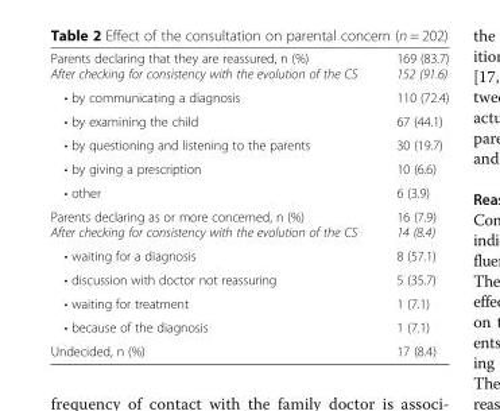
<table><tbody><tr><td>Parents declaring that they are reassured, n (%) After checking for consistency with the evolution of the CS</td><td>169 (83.7) 152 (91.6)</td></tr><tr><td>• by communicating a diagnosis</td><td>110 (72.4)</td></tr><tr><td>• by examining the child</td><td>67 (44.1)</td></tr><tr><td>• by questioning and listening to the parents</td><td>30 (19.7)</td></tr><tr><td>• by giving a prescription</td><td>10 (6.6)</td></tr><tr><td>• other</td><td>6 (3.9)</td></tr><tr><td>Parents declaring as or more concerned, n (%) After checking for consistency with the evolution of the CS</td><td>16 (7.9) 14 (8.4)</td></tr><tr><td>• waiting for a diagnosis</td><td>8 (57.1)</td></tr><tr><td>• discussion with doctor not reassuring</td><td>5 (35.7)</td></tr><tr><td>• waiting for treatment</td><td>1 (7.1)</td></tr><tr><td>• because of the diagnosis</td><td>1 (7.1)</td></tr><tr><td>Undecided, n (%)</td><td>17 (8.4)</td></tr></tbody></table>